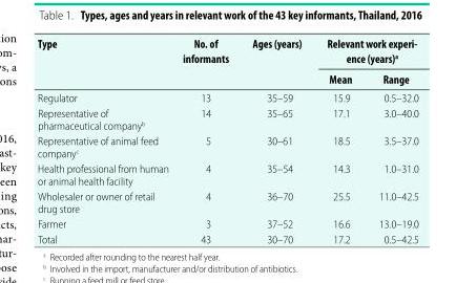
<table><thead><tr><td rowspan="2">Type</td><td rowspan="2">No. of informants</td><td rowspan="2">Ages (years)</td><td colspan="2">Relevant work experi- ence (years)a</td></tr><tr><td>Mean</td><td>Range</td></tr></thead><tbody><tr><td>Regulator</td><td>13</td><td>35–59</td><td>15.9</td><td>0.5–32.0</td></tr><tr><td>Representative of pharmaceutical company<sup>b</sup></td><td>14</td><td>35–65</td><td>17.1</td><td>3.0–40.0</td></tr><tr><td>Representative of animal feed company<sup>c</sup></td><td>5</td><td>30–61</td><td>18.5</td><td>3.5–37.0</td></tr><tr><td>Health professional from human or animal health facility</td><td>4</td><td>35–54</td><td>14.3</td><td>1.0–31.0</td></tr><tr><td>Wholesaler or owner of retail drug store</td><td>4</td><td>36–70</td><td>25.5</td><td>11.0–42.5</td></tr><tr><td>Farmer</td><td>3</td><td>37–52</td><td>16.6</td><td>13.0–19.0</td></tr><tr><td>Total</td><td>43</td><td>30–70</td><td>17.2</td><td>0.5–42.5</td></tr></tbody></table>